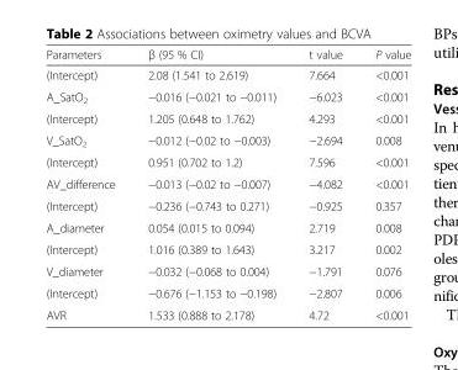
<table><thead><tr><td>Parameters</td><td>β (95 % CI)</td><td>t value</td><td>P value</td></tr></thead><tbody><tr><td>(Intercept)</td><td>2.08 (1.541 to 2.619)</td><td>7.664</td><td>&lt;0.001</td></tr><tr><td>A_SatO<sub>2</sub></td><td>−0.016 (−0.021 to −0.011)</td><td>−6.023</td><td>&lt;0.001</td></tr><tr><td>(Intercept)</td><td>1.205 (0.648 to 1.762)</td><td>4.293</td><td>&lt;0.001</td></tr><tr><td>V_SatO<sub>2</sub></td><td>−0.012 (−0.02 to −0.003)</td><td>−2.694</td><td>0.008</td></tr><tr><td>(Intercept)</td><td>0.951 (0.702 to 1.2)</td><td>7.596</td><td>&lt;0.001</td></tr><tr><td>AV_difference</td><td>−0.013 (−0.02 to −0.007)</td><td>−4.082</td><td>&lt;0.001</td></tr><tr><td>(Intercept)</td><td>−0.236 (−0.743 to 0.271)</td><td>−0.925</td><td>0.357</td></tr><tr><td>A_diameter</td><td>0.054 (0.015 to 0.094)</td><td>2.719</td><td>0.008</td></tr><tr><td>(Intercept)</td><td>1.016 (0.389 to 1.643)</td><td>3.217</td><td>0.002</td></tr><tr><td>V_diameter</td><td>−0.032 (−0.068 to 0.004)</td><td>−1.791</td><td>0.076</td></tr><tr><td>(Intercept)</td><td>−0.676 (−1.153 to −0.198)</td><td>−2.807</td><td>0.006</td></tr><tr><td>AVR</td><td>1.533 (0.888 to 2.178)</td><td>4.72</td><td>&lt;0.001</td></tr></tbody></table>